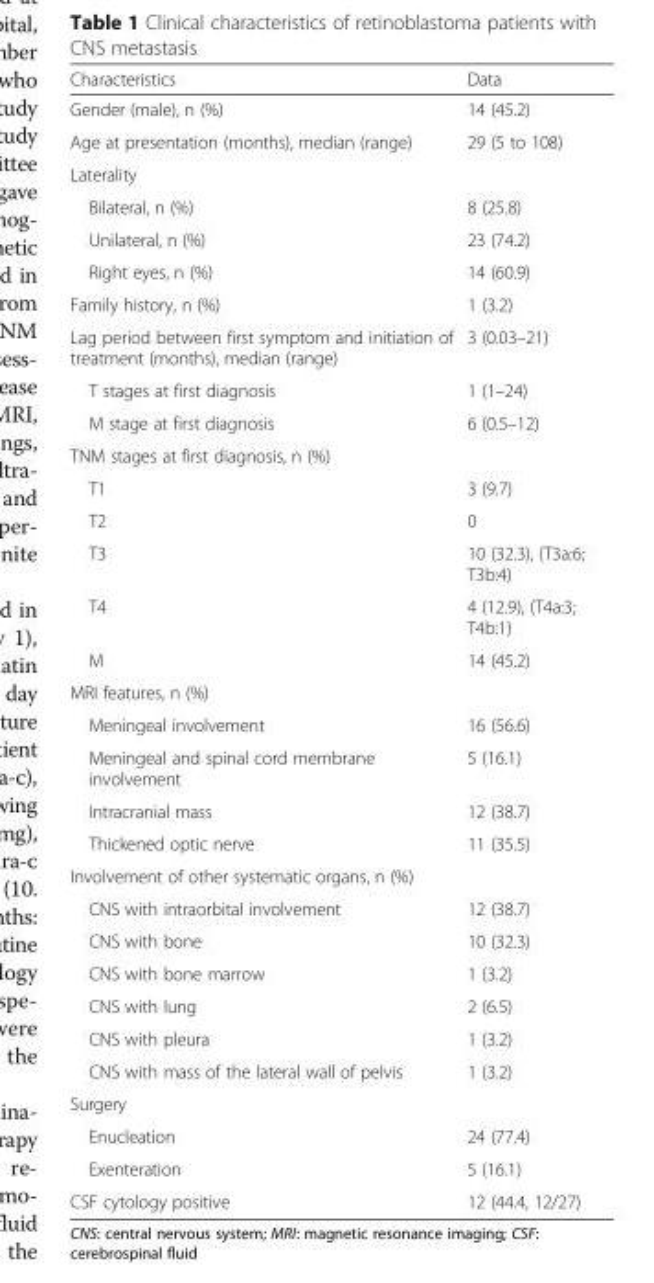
<table><thead><tr><td>Characteristics</td><td>Data</td></tr></thead><tbody><tr><td>Gender (male), n (%)</td><td>14 (45.2)</td></tr><tr><td>Age at presentation (months), median (range)</td><td>29 (5 to 108)</td></tr><tr><td colspan="2">Laterality</td></tr><tr><td>Bilateral, n (%)</td><td>8 (25.8)</td></tr><tr><td>Unilateral, n (%)</td><td>23 (74.2)</td></tr><tr><td>Right eyes, n (%)</td><td>14 (60.9)</td></tr><tr><td>Family history, n (%)</td><td>1 (3.2)</td></tr><tr><td>Lag period between first symptom and initiation of treatment (months), median (range)</td><td>3 (0.03–21)</td></tr><tr><td>T stages at first diagnosis</td><td>1 (1–24)</td></tr><tr><td>M stage at first diagnosis</td><td>6 (0.5–12)</td></tr><tr><td colspan="2">TNM stages at first diagnosis, n (%)</td></tr><tr><td>T1</td><td>3 (9.7)</td></tr><tr><td>T2</td><td>0</td></tr><tr><td>T3</td><td>10 (32.3), (T3a:6; T3b:4)</td></tr><tr><td>T4</td><td>4 (12.9), (T4a:3; T4b:1)</td></tr><tr><td>M</td><td>14 (45.2)</td></tr><tr><td colspan="2">MRI features, n (%)</td></tr><tr><td>Meningeal involvement</td><td>16 (56.6)</td></tr><tr><td>Meningeal and spinal cord membrane involvement</td><td>5 (16.1)</td></tr><tr><td>Intracranial mass</td><td>12 (38.7)</td></tr><tr><td>Thickened optic nerve</td><td>11 (35.5)</td></tr><tr><td colspan="2">Involvement of other systematic organs, n (%)</td></tr><tr><td>CNS with intraorbital involvement</td><td>12 (38.7)</td></tr><tr><td>CNS with bone</td><td>10 (32.3)</td></tr><tr><td>CNS with bone marrow</td><td>1 (3.2)</td></tr><tr><td>CNS with lung</td><td>2 (6.5)</td></tr><tr><td>CNS with pleura</td><td>1 (3.2)</td></tr><tr><td>CNS with mass of the lateral wall of pelvis</td><td>1 (3.2)</td></tr><tr><td colspan="2">Surgery</td></tr><tr><td>Enucleation</td><td>24 (77.4)</td></tr><tr><td>Exenteration</td><td>5 (16.1)</td></tr><tr><td>CSF cytology positive</td><td>12 (44.4, 12/27)</td></tr></tbody></table>